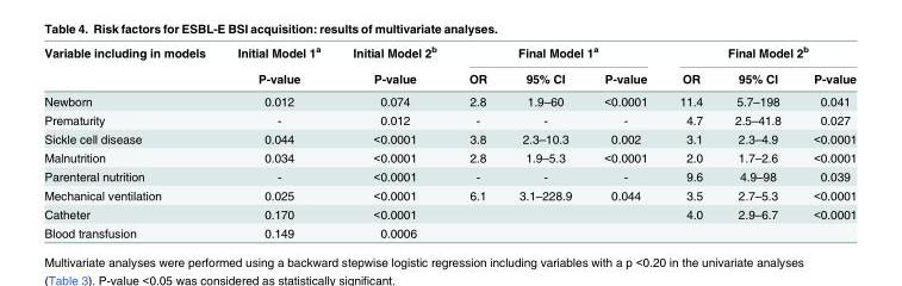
<table><thead><tr><td rowspan="2">Variable including in models</td><td rowspan="2">Initial Model 1<sup>a</sup> P-value</td><td rowspan="2">Initial Model 2<sup>b</sup> P-value</td><td colspan="3">Final Model 1<sup>a</sup></td><td colspan="3">Final Model 2<sup>b</sup></td></tr><tr><td>OR</td><td>95% CI</td><td>P-value</td><td>OR</td><td>95% CI</td><td>P-value</td></tr></thead><tbody><tr><td>Newborn</td><td>0.012</td><td>0.074</td><td>2.8</td><td>1.9–60</td><td>&lt;0.0001</td><td>11.4</td><td>5.7–198</td><td>0.041</td></tr><tr><td>Prematurity</td><td>-</td><td>0.012</td><td>-</td><td>-</td><td>-</td><td>4.7</td><td>2.5–41.8</td><td>0.027</td></tr><tr><td>Sickle cell disease</td><td>0.044</td><td>&lt;0.0001</td><td>3.8</td><td>2.3–10.3</td><td>0.002</td><td>3.1</td><td>2.3–4.9</td><td>&lt;0.0001</td></tr><tr><td>Malnutrition</td><td>0.034</td><td>&lt;0.0001</td><td>2.8</td><td>1.9–5.3</td><td>&lt;0.0001</td><td>2.0</td><td>1.7–2.6</td><td>&lt;0.0001</td></tr><tr><td>Parenteral nutrition</td><td>-</td><td>&lt;0.0001</td><td>-</td><td>-</td><td>-</td><td>9.6</td><td>4.9–98</td><td>0.039</td></tr><tr><td>Mechanical ventilation</td><td>0.025</td><td>&lt;0.0001</td><td>6.1</td><td>3.1–228.9</td><td>0.044</td><td>3.5</td><td>2.7–5.3</td><td>&lt;0.0001</td></tr><tr><td>Catheter</td><td>0.170</td><td>&lt;0.0001</td><td></td><td></td><td></td><td>4.0</td><td>2.9–6.7</td><td>&lt;0.0001</td></tr><tr><td>Blood transfusion</td><td>0.149</td><td>0.0006</td><td></td><td></td><td></td><td></td><td></td><td></td></tr></tbody></table>